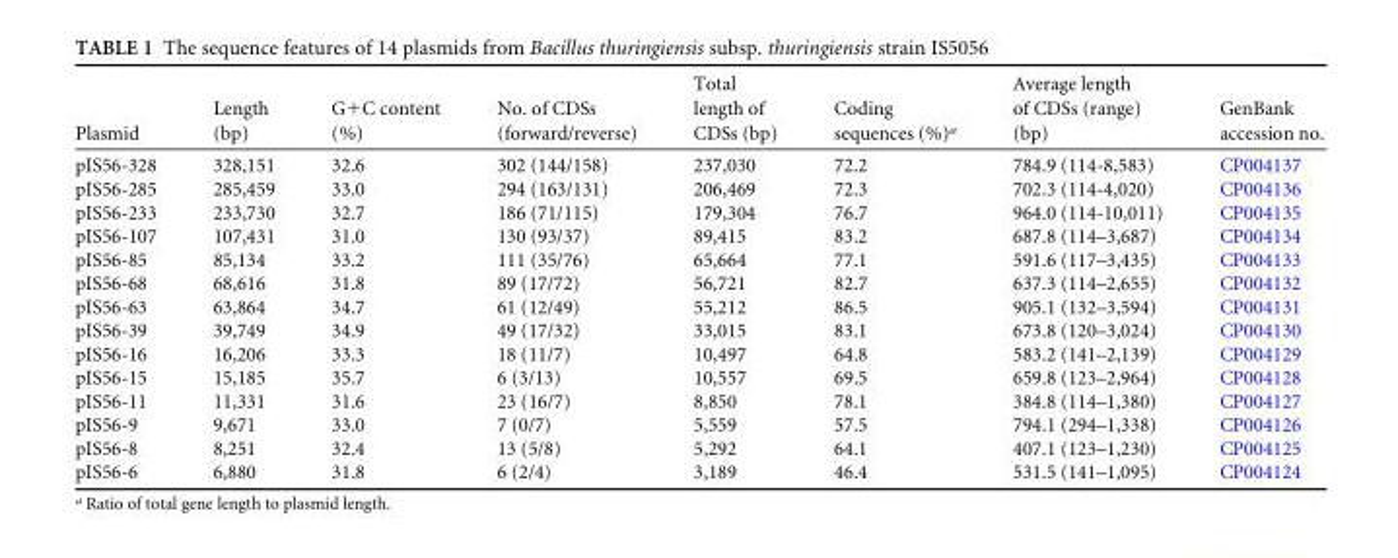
<table><thead><tr><td>Plasmid</td><td>Length (bp)</td><td>G+C content (%)</td><td>No. of CDSs (forward/reverse)</td><td>Total length of CDSs (bp)</td><td>Coding sequences (%)<sup>a</sup></td><td>Average length of CDSs (range) (bp)</td><td>GenBank accession no.</td></tr></thead><tbody><tr><td>pIS56-328</td><td>328,151</td><td>32.6</td><td>302 (144/158)</td><td>237,030</td><td>72.2</td><td>784.9 (114-8,583)</td><td>CP004137</td></tr><tr><td>pIS56-285</td><td>285,459</td><td>33.0</td><td>294 (163/131)</td><td>206,469</td><td>72.3</td><td>702.3 (114-4,020)</td><td>CP004136</td></tr><tr><td>pIS56-233</td><td>233,730</td><td>32.7</td><td>186 (71/115)</td><td>179,304</td><td>76.7</td><td>964.0 (114-10,011)</td><td>CP004135</td></tr><tr><td>pIS56-107</td><td>107,431</td><td>31.0</td><td>130 (93/37)</td><td>89,415</td><td>83.2</td><td>687.8 (114–3,687)</td><td>CP004134</td></tr><tr><td>pIS56-85</td><td>85,134</td><td>33.2</td><td>111 (35/76)</td><td>65,664</td><td>77.1</td><td>591.6 (117–3,435)</td><td>CP004133</td></tr><tr><td>pIS56-68</td><td>68,616</td><td>31.8</td><td>89 (17/72)</td><td>56,721</td><td>82.7</td><td>637.3 (114–2,655)</td><td>CP004132</td></tr><tr><td>pIS56-63</td><td>63,864</td><td>34.7</td><td>61 (12/49)</td><td>55,212</td><td>86.5</td><td>905.1 (132–3,594)</td><td>CP004131</td></tr><tr><td>pIS56-39</td><td>39,749</td><td>34.9</td><td>49 (17/32)</td><td>33,015</td><td>83.1</td><td>673.8 (120–3,024)</td><td>CP004130</td></tr><tr><td>pIS56-16</td><td>16,206</td><td>33.3</td><td>18 (11/7)</td><td>10,497</td><td>64.8</td><td>583.2 (141–2,139)</td><td>CP004129</td></tr><tr><td>pIS56-15</td><td>15,185</td><td>35.7</td><td>6 (3/13)</td><td>10,557</td><td>69.5</td><td>659.8 (123–2,964)</td><td>CP004128</td></tr><tr><td>pIS56-11</td><td>11,331</td><td>31.6</td><td>23 (16/7)</td><td>8,850</td><td>78.1</td><td>384.8 (114–1,380)</td><td>CP004127</td></tr><tr><td>pIS56-9</td><td>9,671</td><td>33.0</td><td>7 (0/7)</td><td>5,559</td><td>57.5</td><td>794.1 (294–1,338)</td><td>CP004126</td></tr><tr><td>pIS56-8</td><td>8,251</td><td>32.4</td><td>13 (5/8)</td><td>5,292</td><td>64.1</td><td>407.1 (123–1,230)</td><td>CP004125</td></tr><tr><td>pIS56-6</td><td>6,880</td><td>31.8</td><td>6 (2/4)</td><td>3,189</td><td>46.4</td><td>531.5 (141–1,095)</td><td>CP004124</td></tr></tbody></table>